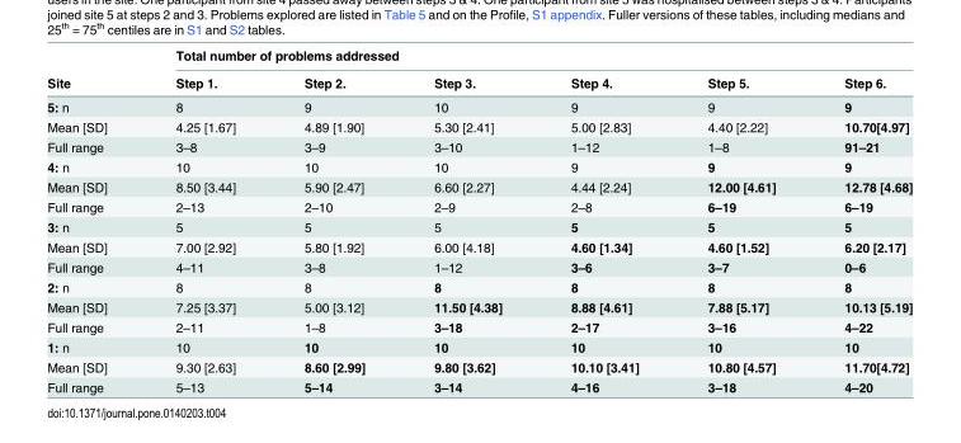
<table><thead><tr><td rowspan="2">Site</td><td colspan="6">Total number of problems addressed</td></tr><tr><td>Step 1.</td><td>Step 2.</td><td>Step 3.</td><td>Step 4.</td><td>Step 5.</td><td>Step 6.</td></tr></thead><tbody><tr><td>5: n</td><td>8</td><td>9</td><td>10</td><td>9</td><td>9</td><td>9</td></tr><tr><td>Mean [SD]</td><td>4.25 [1.67]</td><td>4.89 [1.90]</td><td>5.30 [2.41]</td><td>5.00 [2.83]</td><td>4.40 [2.22]</td><td>10.70[4.97]</td></tr><tr><td>Full range</td><td>3–8</td><td>3–9</td><td>3–10</td><td>1–12</td><td>1–8</td><td>91–21</td></tr><tr><td>4: n</td><td>10</td><td>10</td><td>10</td><td>9</td><td>9</td><td>9</td></tr><tr><td>Mean [SD]</td><td>8.50 [3.44]</td><td>5.90 [2.47]</td><td>6.60 [2.27]</td><td>4.44 [2.24]</td><td>12.00 [4.61]</td><td>12.78 [4.68]</td></tr><tr><td>Full range</td><td>2–13</td><td>2–10</td><td>2–9</td><td>2–8</td><td>6–19</td><td>6–19</td></tr><tr><td>3: n</td><td>5</td><td>5</td><td>5</td><td>5</td><td>5</td><td>5</td></tr><tr><td>Mean [SD]</td><td>7.00 [2.92]</td><td>5.80 [1.92]</td><td>6.00 [4.18]</td><td>4.60 [1.34]</td><td>4.60 [1.52]</td><td>6.20 [2.17]</td></tr><tr><td>Full range</td><td>4–11</td><td>3–8</td><td>1–12</td><td>3–6</td><td>3–7</td><td>0–6</td></tr><tr><td>2: n</td><td>8</td><td>8</td><td>8</td><td>8</td><td>8</td><td>8</td></tr><tr><td>Mean [SD]</td><td>7.25 [3.37]</td><td>5.00 [3.12]</td><td>11.50 [4.38]</td><td>8.88 [4.61]</td><td>7.88 [5.17]</td><td>10.13 [5.19]</td></tr><tr><td>Full range</td><td>2–11</td><td>1–8</td><td>3–18</td><td>2–17</td><td>3–16</td><td>4–22</td></tr><tr><td>1: n</td><td>10</td><td>10</td><td>10</td><td>10</td><td>10</td><td>10</td></tr><tr><td>Mean [SD]</td><td>9.30 [2.63]</td><td>8.60 [2.99]</td><td>9.80 [3.62]</td><td>10.10 [3.41]</td><td>10.80 [4.57]</td><td>11.70[4.72]</td></tr><tr><td>Full range</td><td>5–13</td><td>5–14</td><td>3–14</td><td>4–16</td><td>3–18</td><td>4–20</td></tr></tbody></table>